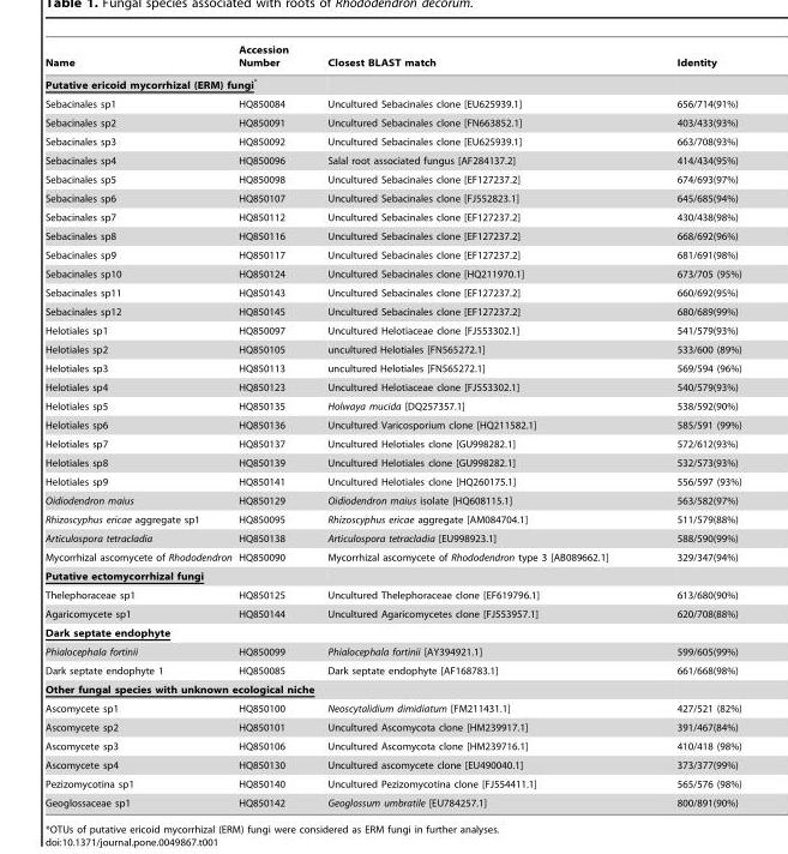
<table><thead><tr><td>Name</td><td>Accession Number</td><td>Closest BLAST match</td><td>Identity</td></tr></thead><tbody><tr><td colspan="4">Putative ericoid mycorrhizal (ERM) fungi*</td></tr><tr><td>Sebacinales sp1</td><td>HQ850084</td><td>Uncultured Sebacinales clone [EU625939.1]</td><td>656/714(91%)</td></tr><tr><td>Sebacinales sp2</td><td>HQ850091</td><td>Uncultured Sebacinales clone [FN663852.1]</td><td>403/433(93%)</td></tr><tr><td>Sebacinales sp3</td><td>HQ850092</td><td>Uncultured Sebacinales clone [EU625939.1]</td><td>663/708(93%)</td></tr><tr><td>Sebacinales sp4</td><td>HQ850096</td><td>Salal root associated fungus [AF284137.2]</td><td>414/434(95%)</td></tr><tr><td>Sebacinales sp5</td><td>HQ850098</td><td>Uncultured Sebacinales clone [EF127237.2]</td><td>674/693(97%)</td></tr><tr><td>Sebacinales sp6</td><td>HQ850107</td><td>Uncultured Sebacinales clone [FJ552823.1]</td><td>645/685(94%)</td></tr><tr><td>Sebacinales sp7</td><td>HQ850112</td><td>Uncultured Sebacinales clone [EF127237.2]</td><td>430/438(98%)</td></tr><tr><td>Sebacinales sp8</td><td>HQ850116</td><td>Uncultured Sebacinales clone [EF127237.2]</td><td>668/692(96%)</td></tr><tr><td>Sebacinales sp9</td><td>HQ850117</td><td>Uncultured Sebacinales clone [EF127237.2]</td><td>681/691(98%)</td></tr><tr><td>Sebacinales sp10</td><td>HQ850124</td><td>Uncultured Sebacinales clone [HQ211970.1]</td><td>673/705 (95%)</td></tr><tr><td>Sebacinales sp11</td><td>HQ850143</td><td>Uncultured Sebacinales clone [EF127237.2]</td><td>660/692(95%)</td></tr><tr><td>Sebacinales sp12</td><td>HQ850145</td><td>Uncultured Sebacinales clone [EF127237.2]</td><td>680/689(99%)</td></tr><tr><td>Helotiales sp1</td><td>HQ850097</td><td>Uncultured Helotiaceae clone [FJ553302.1]</td><td>541/579(93%)</td></tr><tr><td>Helotiales sp2</td><td>HQ850105</td><td>uncultured Helotiales [FN565272.1]</td><td>533/600 (89%)</td></tr><tr><td>Helotiales sp3</td><td>HQ850113</td><td>uncultured Helotiales [FN565272.1]</td><td>569/594 (96%)</td></tr><tr><td>Helotiales sp4</td><td>HQ850123</td><td>Uncultured Helotiaceae clone [FJ553302.1]</td><td>540/579(93%)</td></tr><tr><td>Helotiales sp5</td><td>HQ850135</td><td>Holwaya mucida [DQ257357.1]</td><td>538/592(90%)</td></tr><tr><td>Helotiales sp6</td><td>HQ850136</td><td>Uncultured Varicosporium clone [HQ211582.1]</td><td>585/591 (99%)</td></tr><tr><td>Helotiales sp7</td><td>HQ850137</td><td>Uncultured Helotiales clone [GU998282.1]</td><td>572/612(93%)</td></tr><tr><td>Helotiales sp8</td><td>HQ850139</td><td>Uncultured Helotiales clone [GU998282.1]</td><td>532/573(93%)</td></tr><tr><td>Helotiales sp9</td><td>HQ850141</td><td>Uncultured Helotiales clone [HQ260175.1]</td><td>556/597 (93%)</td></tr><tr><td>Oidiodendron maius</td><td>HQ850129</td><td>Oidiodendron maius isolate [HQ608115.1]</td><td>563/582(97%)</td></tr><tr><td>Rhizoscyphus ericae aggregate sp1</td><td>HQ850095</td><td>Rhizoscyphus ericae aggregate [AM084704.1]</td><td>511/579(88%)</td></tr><tr><td>Articulospora tetracladia</td><td>HQ850138</td><td>Articulospora tetracladia [EU998923.1]</td><td>588/590(99%)</td></tr><tr><td>Mycorrhizal ascomycete of Rhododendron</td><td>HQ850090</td><td>Mycorrhizal ascomycete of Rhododendron type 3 [AB089662.1]</td><td>329/347(94%)</td></tr><tr><td colspan="4">Putative ectomycorrhizal fungi</td></tr><tr><td>Thelephoraceae sp1</td><td>HQ850125</td><td>Uncultured Thelephoraceae clone [EF619796.1]</td><td>613/680(90%)</td></tr><tr><td>Agaricomycete sp1</td><td>HQ850144</td><td>Uncultured Agaricomycetes clone [FJ553957.1]</td><td>620/708(88%)</td></tr><tr><td colspan="4">Dark septate endophyte</td></tr><tr><td>Phialocephala fortinii</td><td>HQ850099</td><td>Phialocephala fortinii [AY394921.1]</td><td>599/605(99%)</td></tr><tr><td>Dark septate endophyte 1</td><td>HQ850085</td><td>Dark septate endophyte [AF168783.1]</td><td>661/668(98%)</td></tr><tr><td colspan="4">Other fungal species with unknown ecological niche</td></tr><tr><td>Ascomycete sp1</td><td>HQ850100</td><td>Neoscytalidium dimidiatum [FM211431.1]</td><td>427/521 (82%)</td></tr><tr><td>Ascomycete sp2</td><td>HQ850101</td><td>Uncultured Ascomycota clone [HM239917.1]</td><td>391/467(84%)</td></tr><tr><td>Ascomycete sp3</td><td>HQ850106</td><td>Uncultured Ascomycota clone [HM239716.1]</td><td>410/418 (98%)</td></tr><tr><td>Ascomycete sp4</td><td>HQ850130</td><td>Uncultured ascomycete clone [EU490040.1]</td><td>373/377(99%)</td></tr><tr><td>Pezizomycotina sp1</td><td>HQ850140</td><td>Uncultured Pezizomycotina clone [FJ554411.1]</td><td>565/576 (98%)</td></tr><tr><td>Geoglossaceae sp1</td><td>HQ850142</td><td>Geoglossum umbratile [EU784257.1]</td><td>800/891(90%)</td></tr></tbody></table>